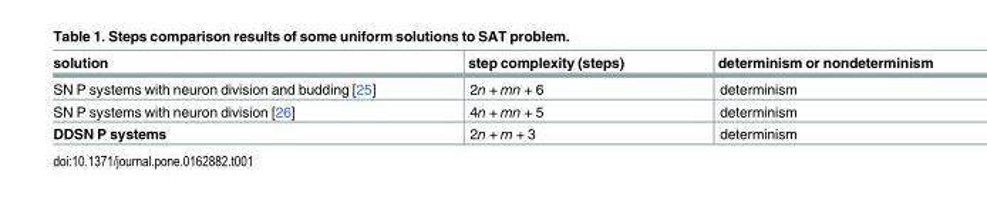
<table><thead><tr><td>solution</td><td>step complexity (steps)</td><td>determinism or nondeterminism</td></tr></thead><tbody><tr><td>SN P systems with neuron division and budding [25]</td><td>2n + mn + 6</td><td>determinism</td></tr><tr><td>SN P systems with neuron division [26]</td><td>4n + mn + 5</td><td>determinism</td></tr><tr><td>DDSN P systems</td><td>2n + m + 3</td><td>determinism</td></tr></tbody></table>